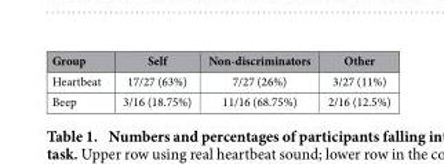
<table><thead><tr><td>Group</td><td>Self</td><td>Non-discriminators</td><td>Other</td></tr></thead><tbody><tr><td>Heartbeat</td><td>17/27 (63%)</td><td>7/27 (26%)</td><td>3/27 (11%)</td></tr><tr><td>Beep</td><td>3/16 (18.75%)</td><td>11/16 (68.75%)</td><td>2/16 (12.5%)</td></tr></tbody></table>